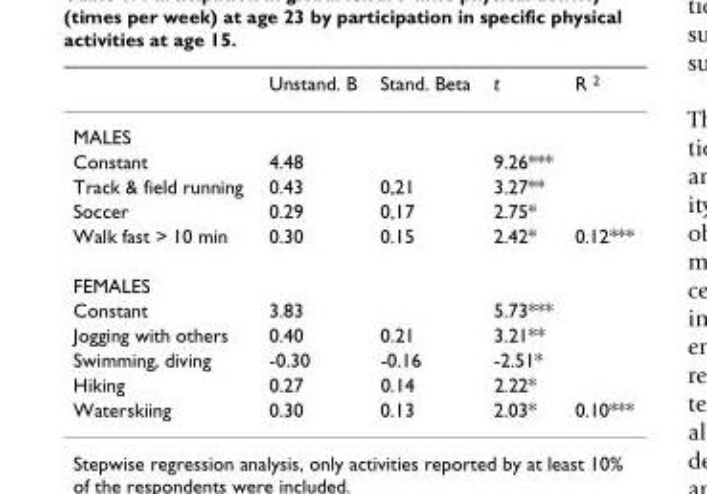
<table><thead><tr><td></td><td>Unstand. B</td><td>Stand. Beta</td><td>t</td><td>R <sup>2</sup></td></tr></thead><tbody><tr><td colspan="5">MALES</td></tr><tr><td>Constant</td><td>4.48</td><td></td><td>9.26***</td><td></td></tr><tr><td>Track &amp; field running</td><td>0.43</td><td>0,21</td><td>3.27**</td><td></td></tr><tr><td>Soccer</td><td>0.29</td><td>0,17</td><td>2.75*</td><td></td></tr><tr><td>Walk fast &gt; 10 min</td><td>0.30</td><td>0.15</td><td>2.42*</td><td>0.12***</td></tr><tr><td colspan="5">FEMALES</td></tr><tr><td>Constant</td><td>3.83</td><td></td><td>5.73***</td><td></td></tr><tr><td>Jogging with others</td><td>0.40</td><td>0.21</td><td>3.21**</td><td></td></tr><tr><td>Swimming, diving</td><td>-0.30</td><td>-0.16</td><td>-2.51*</td><td></td></tr><tr><td>Hiking</td><td>0.27</td><td>0.14</td><td>2.22*</td><td></td></tr><tr><td>Waterskiing</td><td>0.30</td><td>0.13</td><td>2.03*</td><td>0.10***</td></tr></tbody></table>